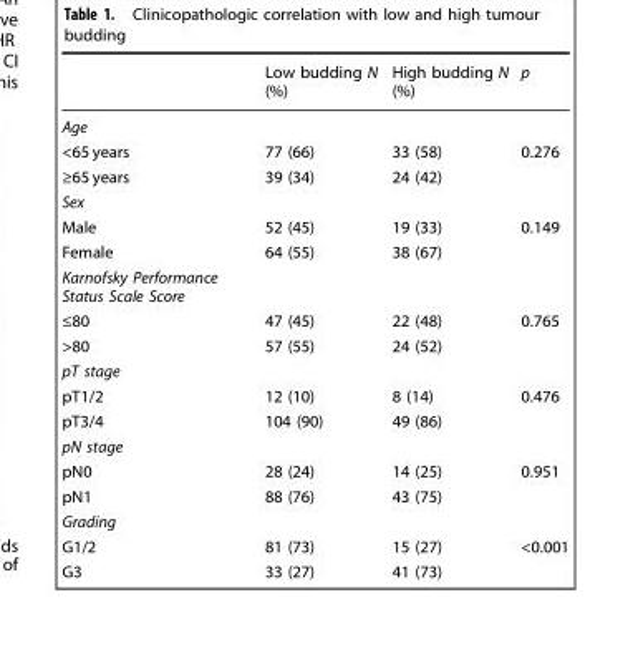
<table><thead><tr><td></td><td>Low budding N (%)</td><td>High budding N (%)</td><td>p</td></tr></thead><tbody><tr><td colspan="4">Age</td></tr><tr><td>&lt;65 years</td><td>77 (66)</td><td>33 (58)</td><td rowspan="2">0.276</td></tr><tr><td>≥65 years</td><td>39 (34)</td><td>24 (42)</td></tr><tr><td colspan="4">Sex</td></tr><tr><td>Male</td><td>52 (45)</td><td>19 (33)</td><td rowspan="2">0.149</td></tr><tr><td>Female</td><td>64 (55)</td><td>38 (67)</td></tr><tr><td colspan="4">Karnofsky Performance Status Scale Score</td></tr><tr><td>≤80</td><td>47 (45)</td><td>22 (48)</td><td rowspan="2">0.765</td></tr><tr><td>&gt;80</td><td>57 (55)</td><td>24 (52)</td></tr><tr><td colspan="4">pT stage</td></tr><tr><td>pT1/2</td><td>12 (10)</td><td>8 (14)</td><td rowspan="2">0.476</td></tr><tr><td>pT3/4</td><td>104 (90)</td><td>49 (86)</td></tr><tr><td colspan="4">pN stage</td></tr><tr><td>pN0</td><td>28 (24)</td><td>14 (25)</td><td rowspan="2">0.951</td></tr><tr><td>pN1</td><td>88 (76)</td><td>43 (75)</td></tr><tr><td colspan="4">Grading</td></tr><tr><td>G1/2</td><td>81 (73)</td><td>15 (27)</td><td rowspan="2">&lt;0.001</td></tr><tr><td>G3</td><td>33 (27)</td><td>41 (73)</td></tr></tbody></table>